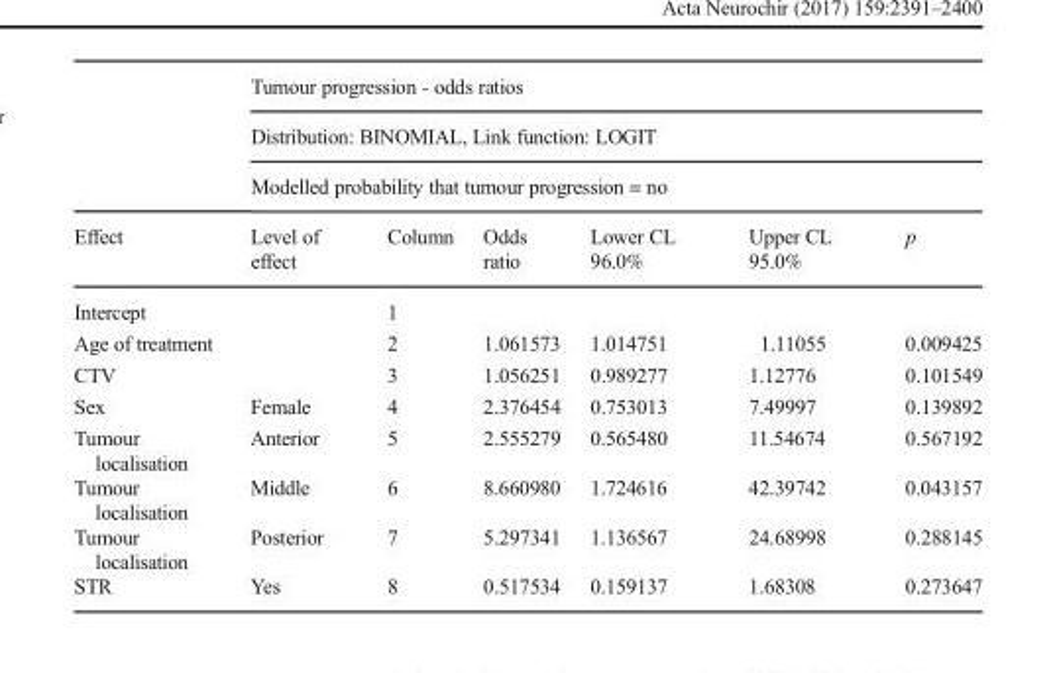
<table><thead><tr><td rowspan="4">Effect</td><td rowspan="3" colspan="6">Tumour progression - odds ratios Distribution: BINOMIAL, Link function: LOGIT Modelled probability that tumour progression = no</td></tr><tr></tr><tr></tr><tr><td>Level of effect</td><td>Column</td><td>Odds ratio</td><td>Lower CL 96.0%</td><td>Upper CL 95.0%</td><td>p</td></tr></thead><tbody><tr><td>Intercept</td><td></td><td>1</td><td></td><td></td><td></td><td></td></tr><tr><td>Age of treatment</td><td></td><td>2</td><td>1.061573</td><td>1.014751</td><td>1.11055</td><td>0.009425</td></tr><tr><td>CTV</td><td></td><td>3</td><td>1.056251</td><td>0.989277</td><td>1.12776</td><td>0.101549</td></tr><tr><td>Sex</td><td>Female</td><td>4</td><td>2.376454</td><td>0.753013</td><td>7.49997</td><td>0.139892</td></tr><tr><td>Tumour localisation</td><td>Anterior</td><td>5</td><td>2.555279</td><td>0.565480</td><td>11.54674</td><td>0.567192</td></tr><tr><td>Tumour localisation</td><td>Middle</td><td>6</td><td>8.660980</td><td>1.724616</td><td>42.39742</td><td>0.043157</td></tr><tr><td>Tumour localisation</td><td>Posterior</td><td>7</td><td>5.297341</td><td>1.136567</td><td>24.68998</td><td>0.288145</td></tr><tr><td>STR</td><td>Yes</td><td>8</td><td>0.517534</td><td>0.159137</td><td>1.68308</td><td>0.273647</td></tr></tbody></table>